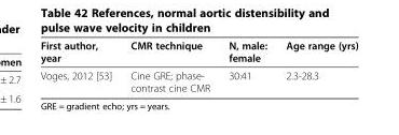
<table><thead><tr><td>First author, year</td><td>CMR technique</td><td>N, male: female</td><td>Age range (yrs)</td></tr></thead><tbody><tr><td>Voges, 2012 [53]</td><td>Cine GRE; phase- contrast cine CMR</td><td>30:41</td><td>2.3-28.3</td></tr></tbody></table>